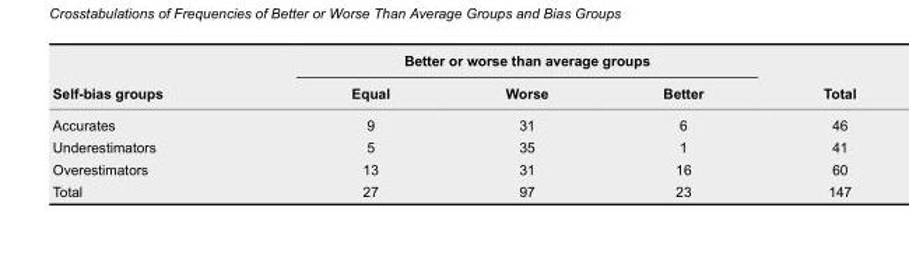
<table><thead><tr><td rowspan="2">Self-bias groups</td><td colspan="3">Better or worse than average groups</td><td rowspan="2">Total</td></tr><tr><td>Equal</td><td>Worse</td><td>Better</td></tr></thead><tbody><tr><td>Accurates</td><td>9</td><td>31</td><td>6</td><td>46</td></tr><tr><td>Underestimators</td><td>5</td><td>35</td><td>1</td><td>41</td></tr><tr><td>Overestimators</td><td>13</td><td>31</td><td>16</td><td>60</td></tr><tr><td>Total</td><td>27</td><td>97</td><td>23</td><td>147</td></tr></tbody></table>